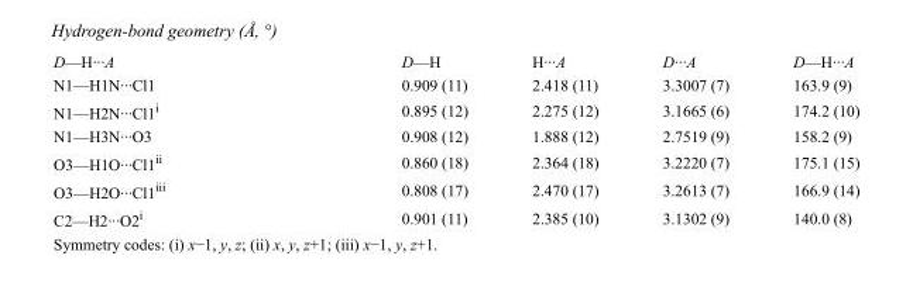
<table><tbody><tr><td>D—H···A</td><td>D—H</td><td>H···A</td><td>D···A</td><td>D—H···A</td></tr><tr><td>N1—H1N···Cl1</td><td>0.909 (11)</td><td>2.418 (11)</td><td>3.3007 (7)</td><td>163.9 (9)</td></tr><tr><td>N1—H2N···Cl1<sup>i</sup></td><td>0.895 (12)</td><td>2.275 (12)</td><td>3.1665 (6)</td><td>174.2 (10)</td></tr><tr><td>N1—H3N···O3</td><td>0.908 (12)</td><td>1.888 (12)</td><td>2.7519 (9)</td><td>158.2 (9)</td></tr><tr><td>O3—H1O···Cl1<sup>ii</sup></td><td>0.860 (18)</td><td>2.364 (18)</td><td>3.2220 (7)</td><td>175.1 (15)</td></tr><tr><td>O3—H2O···Cl1<sup>iii</sup></td><td>0.808 (17)</td><td>2.470 (17)</td><td>3.2613 (7)</td><td>166.9 (14)</td></tr><tr><td>C2—H2···O2<sup>i</sup></td><td>0.901 (11)</td><td>2.385 (10)</td><td>3.1302 (9)</td><td>140.0 (8)</td></tr></tbody></table>